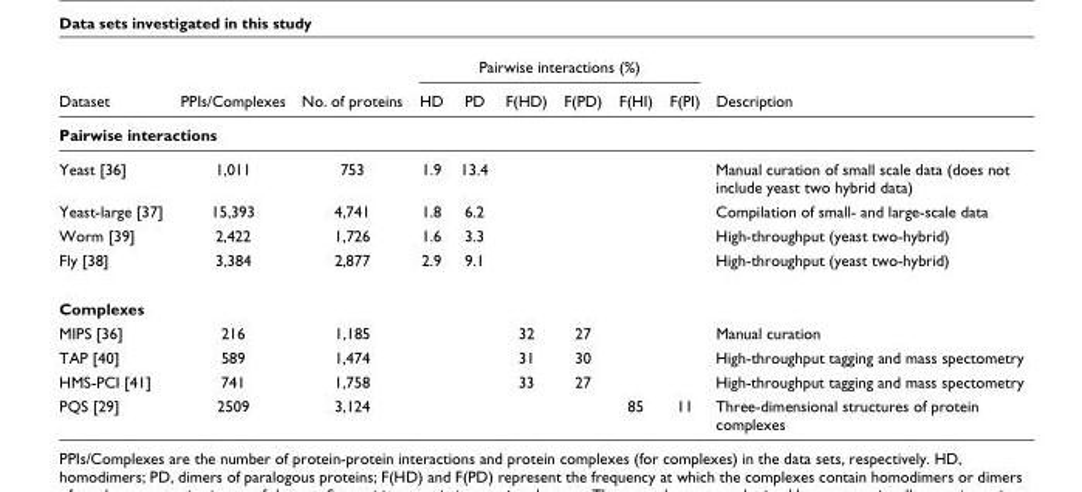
<table><thead><tr><td rowspan="2">Dataset</td><td rowspan="2">PPIs/Complexes</td><td rowspan="2">No. of proteins</td><td colspan="6">Pairwise interactions (%)</td><td rowspan="2">Description</td></tr><tr><td>HD</td><td>PD</td><td>F(HD)</td><td>F(PD)</td><td>F(HI)</td><td>F(PI)</td></tr></thead><tbody><tr><td colspan="10">Pairwise interactions</td></tr><tr><td>Yeast [36]</td><td>1,011</td><td>753</td><td>1.9</td><td>13.4</td><td></td><td></td><td></td><td></td><td>Manual curation of small scale data (does not include yeast two hybrid data)</td></tr><tr><td>Yeast-large [37]</td><td>15,393</td><td>4,741</td><td>1.8</td><td>6.2</td><td></td><td></td><td></td><td></td><td>Compilation of small- and large-scale data</td></tr><tr><td>Worm [39]</td><td>2,422</td><td>1,726</td><td>1.6</td><td>3.3</td><td></td><td></td><td></td><td></td><td>High-throughput (yeast two-hybrid)</td></tr><tr><td>Fly [38]</td><td>3,384</td><td>2,877</td><td>2.9</td><td>9.1</td><td></td><td></td><td></td><td></td><td>High-throughput (yeast two-hybrid)</td></tr><tr><td colspan="10">Complexes</td></tr><tr><td>MIPS [36]</td><td>216</td><td>1,185</td><td></td><td></td><td>32</td><td>27</td><td></td><td></td><td>Manual curation</td></tr><tr><td>TAP [40]</td><td>589</td><td>1,474</td><td></td><td></td><td>31</td><td>30</td><td></td><td></td><td>High-throughput tagging and mass spectometry</td></tr><tr><td>HMS-PCI [41]</td><td>741</td><td>1,758</td><td></td><td></td><td>33</td><td>27</td><td></td><td></td><td>High-throughput tagging and mass spectometry</td></tr><tr><td>PQS [29]</td><td>2509</td><td>3,124</td><td></td><td></td><td></td><td></td><td>85</td><td>11</td><td>Three-dimensional structures of protein complexes</td></tr></tbody></table>